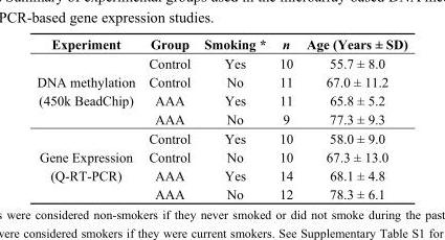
<table><thead><tr><td>Experiment</td><td>Group</td><td>Smoking *</td><td>n</td><td>Age (Years ± SD)</td></tr></thead><tbody><tr><td rowspan="4">DNA methylation (450k BeadChip)</td><td>Control</td><td>Yes</td><td>10</td><td>55.7 ± 8.0</td></tr><tr><td>Control</td><td>No</td><td>11</td><td>67.0 ± 11.2</td></tr><tr><td>AAA</td><td>Yes</td><td>11</td><td>65.8 ± 5.2</td></tr><tr><td>AAA</td><td>No</td><td>9</td><td>77.3 ± 9.3</td></tr><tr><td rowspan="4">Gene Expression (Q-RT-PCR)</td><td>Control</td><td>Yes</td><td>10</td><td>58.0 ± 9.0</td></tr><tr><td>Control</td><td>No</td><td>10</td><td>67.3 ± 13.0</td></tr><tr><td>AAA</td><td>Yes</td><td>14</td><td>68.1 ± 4.8</td></tr><tr><td>AAA</td><td>No</td><td>12</td><td>78.3 ± 6.1</td></tr></tbody></table>